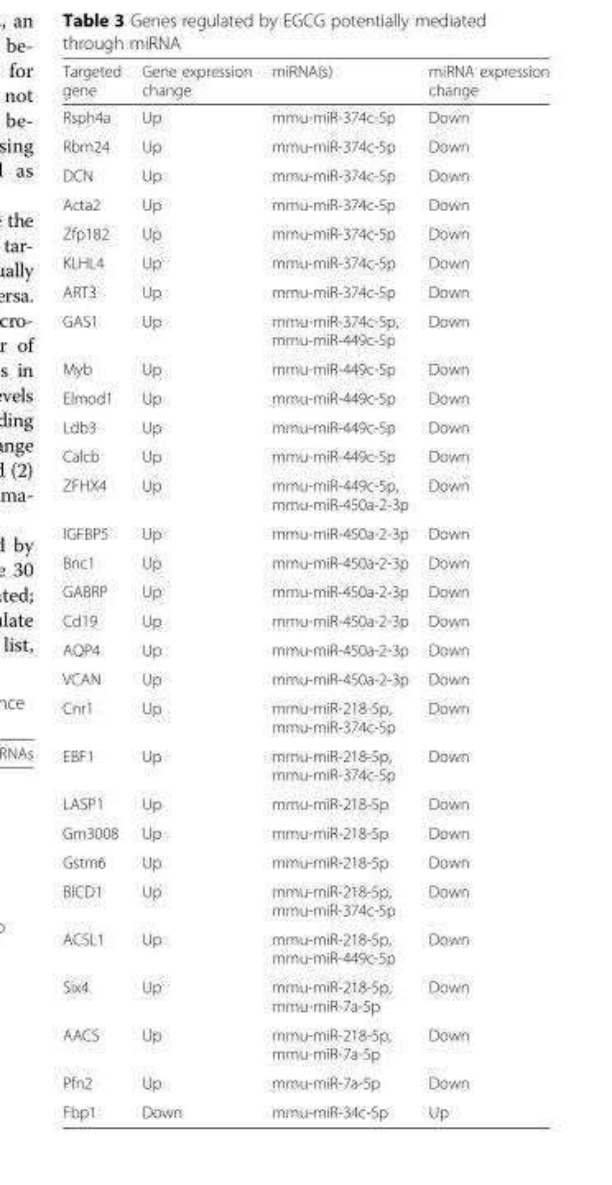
<table><thead><tr><td>Targeted gene</td><td>Gene expression change</td><td>miRNA(s)</td><td>miRNA expression change</td></tr></thead><tbody><tr><td>Rsph4a</td><td>Up</td><td>mmu-miR-374c-5p</td><td>Down</td></tr><tr><td>Rbm24</td><td>Up</td><td>mmu-miR-374c-5p</td><td>Down</td></tr><tr><td>DCN</td><td>Up</td><td>mmu-miR-374c-5p</td><td>Down</td></tr><tr><td>Acta2</td><td>Up</td><td>mmu-miR-374c-5p</td><td>Down</td></tr><tr><td>Zfp182</td><td>Up</td><td>mmu-miR-374c-5p</td><td>Down</td></tr><tr><td>KLHL4</td><td>Up</td><td>mmu-miR-374c-5p</td><td>Down</td></tr><tr><td>ART3</td><td>Up</td><td>mmu-miR-374c-5p</td><td>Down</td></tr><tr><td>GAS1</td><td>Up</td><td>mmu-miR-374c-5p, mmu-miR-449c-5p</td><td>Down</td></tr><tr><td>Myb</td><td>Up</td><td>mmu-miR-449c-5p</td><td>Down</td></tr><tr><td>Elmod1</td><td>Up</td><td>mmu-miR-449c-5p</td><td>Down</td></tr><tr><td>Ldb3</td><td>Up</td><td>mmu-miR-449c-5p</td><td>Down</td></tr><tr><td>Calcb</td><td>Up</td><td>mmu-miR-449c-5p</td><td>Down</td></tr><tr><td>ZFHX4</td><td>Up</td><td>mmu-miR-449c-5p, mmu-miR-450a-2-3p</td><td>Down</td></tr><tr><td>IGFBP5</td><td>Up</td><td>mmu-miR-450a-2-3p</td><td>Down</td></tr><tr><td>Bnc1</td><td>Up</td><td>mmu-miR-450a-2-3p</td><td>Down</td></tr><tr><td>GABRP</td><td>Up</td><td>mmu-miR-450a-2-3p</td><td>Down</td></tr><tr><td>Cd19</td><td>Up</td><td>mmu-miR-450a-2-3p</td><td>Down</td></tr><tr><td>AQP4</td><td>Up</td><td>mmu-miR-450a-2-3p</td><td>Down</td></tr><tr><td>VCAN</td><td>Up</td><td>mmu-miR-450a-2-3p</td><td>Down</td></tr><tr><td>Cnr1</td><td>Up</td><td>mmu-miR-218-5p, mmu-miR-374c-5p</td><td>Down</td></tr><tr><td>EBF1</td><td>Up</td><td>mmu-miR-218-5p, mmu-miR-374c-5p</td><td>Down</td></tr><tr><td>LASP1</td><td>Up</td><td>mmu-miR-218-5p</td><td>Down</td></tr><tr><td>Gm3008</td><td>Up</td><td>mmu-miR-218-5p</td><td>Down</td></tr><tr><td>Gstm6</td><td>Up</td><td>mmu-miR-218-5p</td><td>Down</td></tr><tr><td>BICD1</td><td>Up</td><td>mmu-miR-218-5p, mmu-miR-374c-5p</td><td>Down</td></tr><tr><td>ACSL1</td><td>Up</td><td>mmu-miR-218-5p, mmu-miR-449c-5p</td><td>Down</td></tr><tr><td>Six4</td><td>Up</td><td>mmu-miR-218-5p, mmu-miR-7a-5p</td><td>Down</td></tr><tr><td>AACS</td><td>Up</td><td>mmu-miR-218-5p, mmu-miR-7a-5p</td><td>Down</td></tr><tr><td>Pfn2</td><td>Up</td><td>mmu-miR-7a-5p</td><td>Down</td></tr><tr><td>Fbp1</td><td>Down</td><td>mmu-miR-34c-5p</td><td>Up</td></tr></tbody></table>